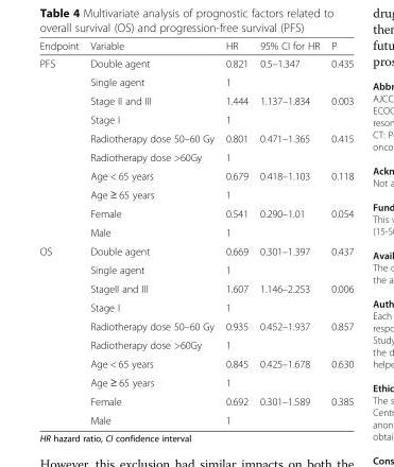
<table><thead><tr><td>Endpoint</td><td>Variable</td><td>HR</td><td>95% CI for HR</td><td>P</td></tr></thead><tbody><tr><td rowspan="10">PFS</td><td>Double agent</td><td>0.821</td><td>0.5–1.347</td><td>0.435</td></tr><tr><td>Single agent</td><td>1</td><td></td><td></td></tr><tr><td>Stage II and III</td><td>1.444</td><td>1.137–1.834</td><td>0.003</td></tr><tr><td>Stage I</td><td>1</td><td></td><td></td></tr><tr><td>Radiotherapy dose 50–60 Gy</td><td>0.801</td><td>0.471–1.365</td><td>0.415</td></tr><tr><td>Radiotherapy dose &gt;60Gy</td><td>1</td><td></td><td></td></tr><tr><td>Age &lt; 65 years</td><td>0.679</td><td>0.418–1.103</td><td>0.118</td></tr><tr><td>Age ≥ 65 years</td><td>1</td><td></td><td></td></tr><tr><td>Female</td><td>0.541</td><td>0.290–1.01</td><td>0.054</td></tr><tr><td>Male</td><td>1</td><td></td><td></td></tr><tr><td rowspan="10">OS</td><td>Double agent</td><td>0.669</td><td>0.301–1.397</td><td>0.437</td></tr><tr><td>Single agent</td><td>1</td><td></td><td></td></tr><tr><td>StageII and III</td><td>1.607</td><td>1.146–2.253</td><td>0.006</td></tr><tr><td>Stage I</td><td>1</td><td></td><td></td></tr><tr><td>Radiotherapy dose 50–60 Gy</td><td>0.935</td><td>0.452–1.937</td><td>0.857</td></tr><tr><td>Radiotherapy dose &gt;60Gy</td><td>1</td><td></td><td></td></tr><tr><td>Age &lt; 65 years</td><td>0.845</td><td>0.425–1.678</td><td>0.630</td></tr><tr><td>Age ≥ 65 years</td><td>1</td><td></td><td></td></tr><tr><td>Female</td><td>0.692</td><td>0.301–1.589</td><td>0.385</td></tr><tr><td>Male</td><td>1</td><td></td><td></td></tr></tbody></table>